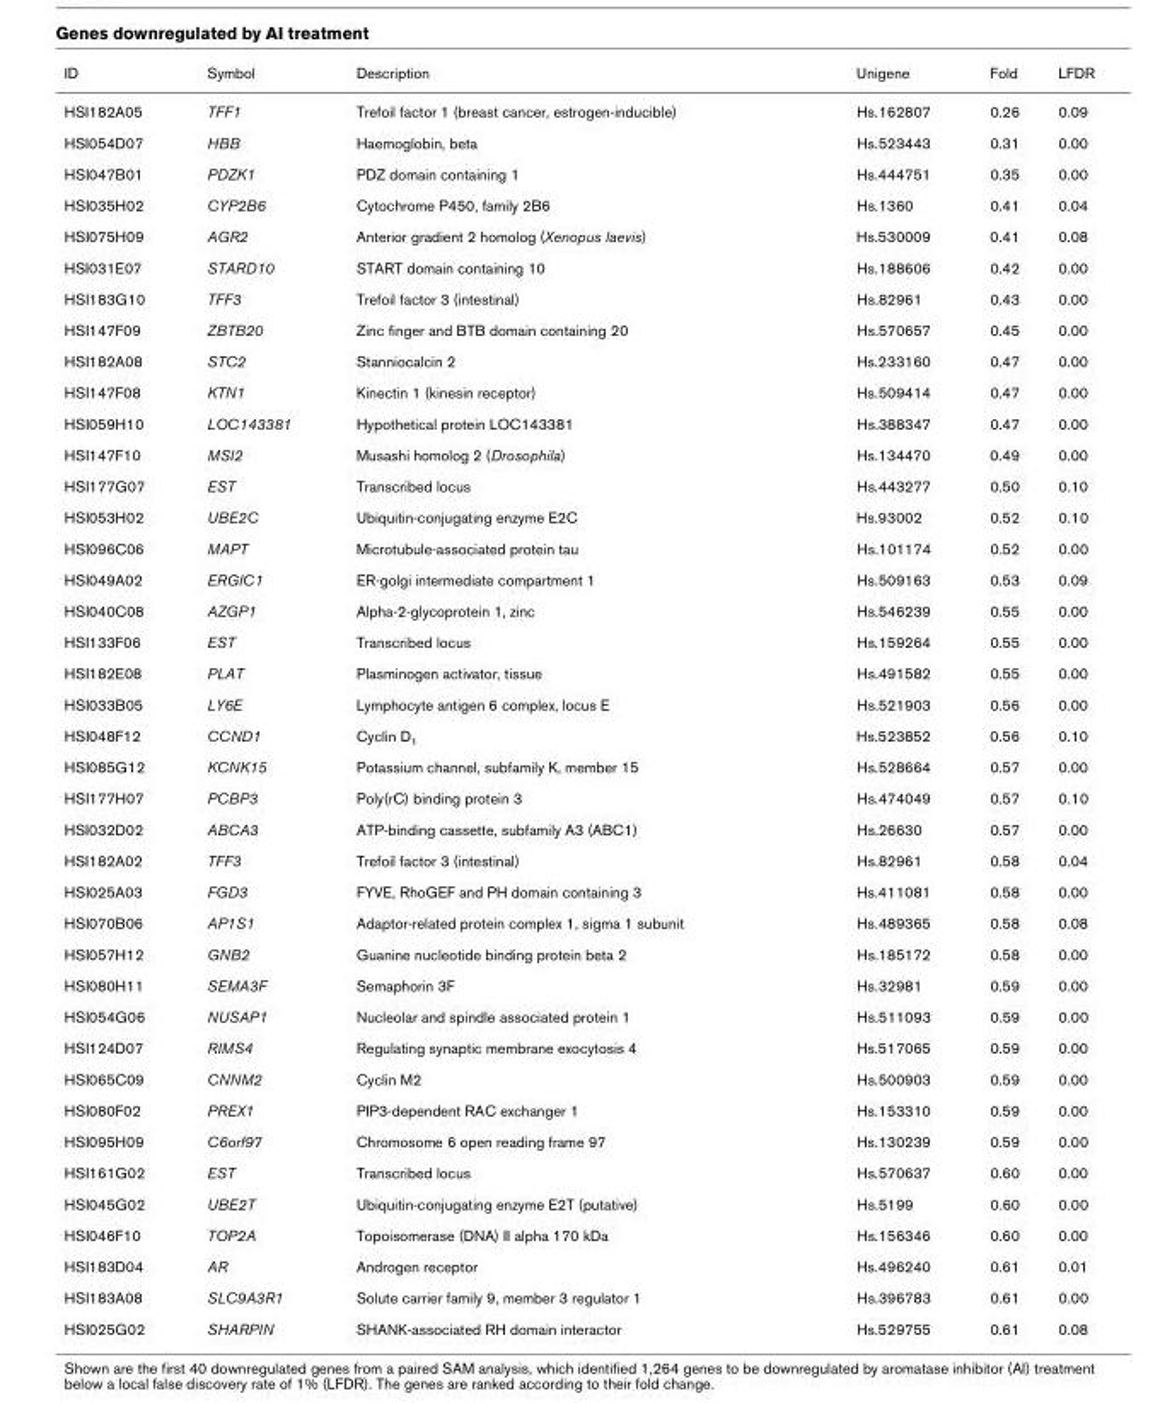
<table><thead><tr><td>ID</td><td>Symbol</td><td>Description</td><td>Unigene</td><td>Fold</td><td>LFDR</td></tr></thead><tbody><tr><td>HSI182A05</td><td>TFF1</td><td>Trefoil factor 1 (breast cancer, estrogen-inducible)</td><td>Hs.162807</td><td>0.26</td><td>0.09</td></tr><tr><td>HSI054D07</td><td>HBB</td><td>Haemoglobin, beta</td><td>Hs.523443</td><td>0.31</td><td>0.00</td></tr><tr><td>HSI047B01</td><td>PDZK1</td><td>PDZ domain containing 1</td><td>Hs.444751</td><td>0.35</td><td>0.00</td></tr><tr><td>HSI035H02</td><td>CYP2B6</td><td>Cytochrome P450, family 2B6</td><td>Hs.1360</td><td>0.41</td><td>0.04</td></tr><tr><td>HSI075H09</td><td>AGR2</td><td>Anterior gradient 2 homolog (Xenopus laevis)</td><td>Hs.530009</td><td>0.41</td><td>0.08</td></tr><tr><td>HSI031E07</td><td>STARD10</td><td>START domain containing 10</td><td>Hs.188606</td><td>0.42</td><td>0.00</td></tr><tr><td>HSI183G10</td><td>TFF3</td><td>Trefoil factor 3 (intestinal)</td><td>Hs.82961</td><td>0.43</td><td>0.00</td></tr><tr><td>HSI147F09</td><td>ZBTB20</td><td>Zinc finger and BTB domain containing 20</td><td>Hs.570657</td><td>0.45</td><td>0.00</td></tr><tr><td>HSI182A08</td><td>STC2</td><td>Stanniocalcin 2</td><td>Hs.233160</td><td>0.47</td><td>0.00</td></tr><tr><td>HSI147F08</td><td>KTN1</td><td>Kinectin 1 (kinesin receptor)</td><td>Hs.509414</td><td>0.47</td><td>0.00</td></tr><tr><td>HSI059H10</td><td>LOC143381</td><td>Hypothetical protein LOC143381</td><td>Hs.388347</td><td>0.47</td><td>0.00</td></tr><tr><td>HSI147F10</td><td>MSI2</td><td>Musashi homolog 2 (Drosophila)</td><td>Hs.134470</td><td>0.49</td><td>0.00</td></tr><tr><td>HSI177G07</td><td>EST</td><td>Transcribed locus</td><td>Hs.443277</td><td>0.50</td><td>0.10</td></tr><tr><td>HSI053H02</td><td>UBE2C</td><td>Ubiquitin-conjugating enzyme E2C</td><td>Hs.93002</td><td>0.52</td><td>0.10</td></tr><tr><td>HSI096C06</td><td>MAPT</td><td>Microtubule-associated protein tau</td><td>Hs.101174</td><td>0.52</td><td>0.00</td></tr><tr><td>HSI049A02</td><td>ERGIC1</td><td>ER-golgi intermediate compartment 1</td><td>Hs.509163</td><td>0.53</td><td>0.09</td></tr><tr><td>HSI040C08</td><td>AZGP1</td><td>Alpha-2-glycoprotein 1, zinc</td><td>Hs.546239</td><td>0.55</td><td>0.00</td></tr><tr><td>HSI133F06</td><td>EST</td><td>Transcribed locus</td><td>Hs.159264</td><td>0.55</td><td>0.00</td></tr><tr><td>HSI182E08</td><td>PLAT</td><td>Plasminogen activator, tissue</td><td>Hs.491582</td><td>0.55</td><td>0.00</td></tr><tr><td>HSI033B05</td><td>LY6E</td><td>Lymphocyte antigen 6 complex, locus E</td><td>Hs.521903</td><td>0.56</td><td>0.00</td></tr><tr><td>HSI048F12</td><td>CCND1</td><td>Cyclin D<sub>1</sub></td><td>Hs.523852</td><td>0.56</td><td>0.10</td></tr><tr><td>HSI085G12</td><td>KCNK15</td><td>Potassium channel, subfamily K, member 15</td><td>Hs.528664</td><td>0.57</td><td>0.00</td></tr><tr><td>HSI177H07</td><td>PCBP3</td><td>Poly(rC) binding protein 3</td><td>Hs.474049</td><td>0.57</td><td>0.10</td></tr><tr><td>HSI032D02</td><td>ABCA3</td><td>ATP-binding cassette, subfamily A3 (ABC1)</td><td>Hs.26630</td><td>0.57</td><td>0.00</td></tr><tr><td>HSI182A02</td><td>TFF3</td><td>Trefoil factor 3 (intestinal)</td><td>Hs.82961</td><td>0.58</td><td>0.04</td></tr><tr><td>HSI025A03</td><td>FGD3</td><td>FYVE, RhoGEF and PH domain containing 3</td><td>Hs.411081</td><td>0.58</td><td>0.00</td></tr><tr><td>HSI070B06</td><td>AP1S1</td><td>Adaptor-related protein complex 1, sigma 1 subunit</td><td>Hs.489365</td><td>0.58</td><td>0.08</td></tr><tr><td>HSI057H12</td><td>GNB2</td><td>Guanine nucleotide binding protein beta 2</td><td>Hs.185172</td><td>0.58</td><td>0.00</td></tr><tr><td>HSI080H11</td><td>SEMA3F</td><td>Semaphorin 3F</td><td>Hs.32981</td><td>0.59</td><td>0.00</td></tr><tr><td>HSI054G06</td><td>NUSAP1</td><td>Nucleolar and spindle associated protein 1</td><td>Hs.511093</td><td>0.59</td><td>0.00</td></tr><tr><td>HSI124D07</td><td>RIMS4</td><td>Regulating synaptic membrane exocytosis 4</td><td>Hs.517065</td><td>0.59</td><td>0.00</td></tr><tr><td>HSI065C09</td><td>CNNM2</td><td>Cyclin M2</td><td>Hs.500903</td><td>0.59</td><td>0.00</td></tr><tr><td>HSI080F02</td><td>PREX1</td><td>PIP3-dependent RAC exchanger 1</td><td>Hs.153310</td><td>0.59</td><td>0.00</td></tr><tr><td>HSI095H09</td><td>C6orf97</td><td>Chromosome 6 open reading frame 97</td><td>Hs.130239</td><td>0.59</td><td>0.00</td></tr><tr><td>HSI161G02</td><td>EST</td><td>Transcribed locus</td><td>Hs.570637</td><td>0.60</td><td>0.00</td></tr><tr><td>HSI045G02</td><td>UBE2T</td><td>Ubiquitin-conjugating enzyme E2T (putative)</td><td>Hs.5199</td><td>0.60</td><td>0.00</td></tr><tr><td>HSI046F10</td><td>TOP2A</td><td>Topoisomerase (DNA) II alpha 170 kDa</td><td>Hs.156346</td><td>0.60</td><td>0.00</td></tr><tr><td>HSI183D04</td><td>AR</td><td>Androgen receptor</td><td>Hs.496240</td><td>0.61</td><td>0.01</td></tr><tr><td>HSI183A08</td><td>SLC9A3R1</td><td>Solute carrier family 9, member 3 regulator 1</td><td>Hs.396783</td><td>0.61</td><td>0.00</td></tr><tr><td>HSI025G02</td><td>SHARPIN</td><td>SHANK-associated RH domain interactor</td><td>Hs.529755</td><td>0.61</td><td>0.08</td></tr></tbody></table>